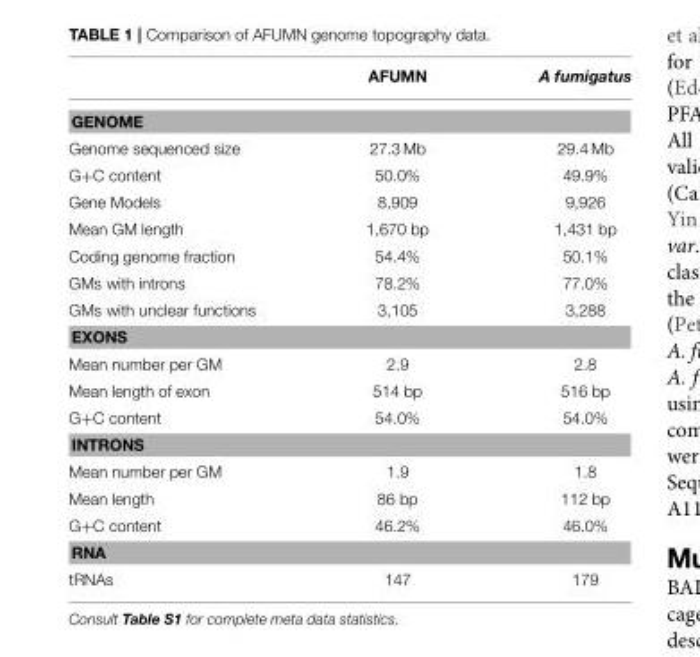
<table><thead><tr><td></td><td>AFUMN</td><td>A fumigatus</td></tr></thead><tbody><tr><td colspan="3">GENOME</td></tr><tr><td>Genome sequenced size</td><td>27.3 Mb</td><td>29.4 Mb</td></tr><tr><td>G+C content</td><td>50.0%</td><td>49.9%</td></tr><tr><td>Gene Models</td><td>8,909</td><td>9,926</td></tr><tr><td>Mean GM length</td><td>1,670 bp</td><td>1,431 bp</td></tr><tr><td>Coding genome fraction</td><td>54.4%</td><td>50.1%</td></tr><tr><td>GMs with introns</td><td>78.2%</td><td>77.0%</td></tr><tr><td>GMs with unclear functions</td><td>3,105</td><td>3,288</td></tr><tr><td colspan="3">EXONS</td></tr><tr><td>Mean number per GM</td><td>2.9</td><td>2.8</td></tr><tr><td>Mean length of exon</td><td>514 bp</td><td>516 bp</td></tr><tr><td>G+C content</td><td>54.0%</td><td>54.0%</td></tr><tr><td colspan="3">INTRONS</td></tr><tr><td>Mean number per GM</td><td>1.9</td><td>1.8</td></tr><tr><td>Mean length</td><td>86 bp</td><td>112 bp</td></tr><tr><td>G+C content</td><td>46.2%</td><td>46.0%</td></tr><tr><td colspan="3">RNA</td></tr><tr><td>tRNAs</td><td>147</td><td>179</td></tr></tbody></table>